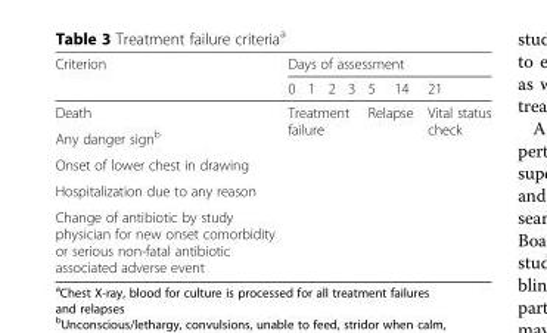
<table><thead><tr><td rowspan="2">Criterion</td><td colspan="7">Days of assessment</td></tr><tr><td>0</td><td>1</td><td>2</td><td>3</td><td>5</td><td>14</td><td>21</td></tr></thead><tbody><tr><td>Death</td><td rowspan="5" colspan="4">Treatment failure</td><td rowspan="5" colspan="2">Relapse</td><td rowspan="5">Vital status check</td></tr><tr><td>Any danger sign<sup>b</sup></td></tr><tr><td>Onset of lower chest in drawing</td></tr><tr><td>Hospitalization due to any reason</td></tr><tr><td>Change of antibiotic by study physician for new onset comorbidity or serious non-fatal antibiotic associated adverse event</td></tr></tbody></table>